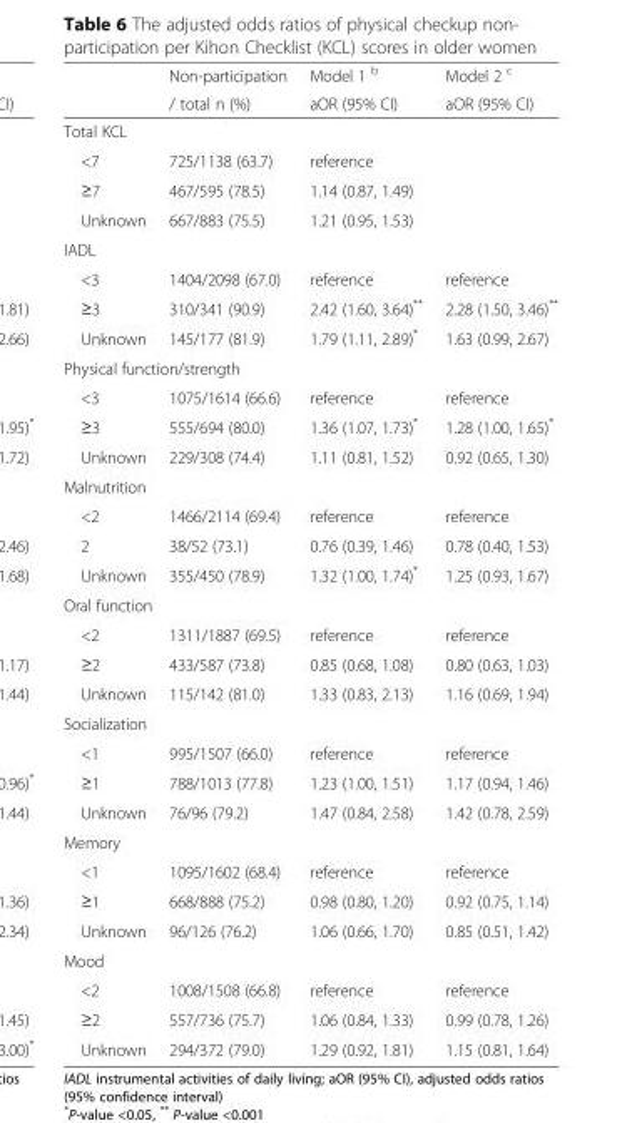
<table><thead><tr><td rowspan="2"></td><td rowspan="2">Non-participation / total n (%)</td><td rowspan="2">Model 1 <sup>b</sup> aOR (95% CI)</td><td rowspan="2">Model 2 <sup>c</sup> aOR (95% CI)</td></tr><tr></tr></thead><tbody><tr><td colspan="4">Total KCL</td></tr><tr><td>&lt;7</td><td>725/1138 (63.7)</td><td>reference</td><td></td></tr><tr><td>≥7</td><td>467/595 (78.5)</td><td>1.14 (0.87, 1.49)</td><td></td></tr><tr><td>Unknown</td><td>667/883 (75.5)</td><td>1.21 (0.95, 1.53)</td><td></td></tr><tr><td colspan="4">IADL</td></tr><tr><td>&lt;3</td><td>1404/2098 (67.0)</td><td>reference</td><td>reference</td></tr><tr><td>≥3</td><td>310/341 (90.9)</td><td>2.42 (1.60, 3.64)**</td><td>2.28 (1.50, 3.46)**</td></tr><tr><td>Unknown</td><td>145/177 (81.9)</td><td>1.79 (1.11, 2.89)*</td><td>1.63 (0.99, 2.67)</td></tr><tr><td colspan="4">Physical function/strength</td></tr><tr><td>&lt;3</td><td>1075/1614 (66.6)</td><td>reference</td><td>reference</td></tr><tr><td>≥3</td><td>555/694 (80.0)</td><td>1.36 (1.07, 1.73)*</td><td>1.28 (1.00, 1.65)*</td></tr><tr><td>Unknown</td><td>229/308 (74.4)</td><td>1.11 (0.81, 1.52)</td><td>0.92 (0.65, 1.30)</td></tr><tr><td colspan="4">Malnutrition</td></tr><tr><td>&lt;2</td><td>1466/2114 (69.4)</td><td>reference</td><td>reference</td></tr><tr><td>2</td><td>38/52 (73.1)</td><td>0.76 (0.39, 1.46)</td><td>0.78 (0.40, 1.53)</td></tr><tr><td>Unknown</td><td>355/450 (78.9)</td><td>1.32 (1.00, 1.74)*</td><td>1.25 (0.93, 1.67)</td></tr><tr><td colspan="4">Oral function</td></tr><tr><td>&lt;2</td><td>1311/1887 (69.5)</td><td>reference</td><td>reference</td></tr><tr><td>≥2</td><td>433/587 (73.8)</td><td>0.85 (0.68, 1.08)</td><td>0.80 (0.63, 1.03)</td></tr><tr><td>Unknown</td><td>115/142 (81.0)</td><td>1.33 (0.83, 2.13)</td><td>1.16 (0.69, 1.94)</td></tr><tr><td colspan="4">Socialization</td></tr><tr><td>&lt;1</td><td>995/1507 (66.0)</td><td>reference</td><td>reference</td></tr><tr><td>≥1</td><td>788/1013 (77.8)</td><td>1.23 (1.00, 1.51)</td><td>1.17 (0.94, 1.46)</td></tr><tr><td>Unknown</td><td>76/96 (79.2)</td><td>1.47 (0.84, 2.58)</td><td>1.42 (0.78, 2.59)</td></tr><tr><td colspan="4">Memory</td></tr><tr><td>&lt;1</td><td>1095/1602 (68.4)</td><td>reference</td><td>reference</td></tr><tr><td>≥1</td><td>668/888 (75.2)</td><td>0.98 (0.80, 1.20)</td><td>0.92 (0.75, 1.14)</td></tr><tr><td>Unknown</td><td>96/126 (76.2)</td><td>1.06 (0.66, 1.70)</td><td>0.85 (0.51, 1.42)</td></tr><tr><td colspan="4">Mood</td></tr><tr><td>&lt;2</td><td>1008/1508 (66.8)</td><td>reference</td><td>reference</td></tr><tr><td>≥2</td><td>557/736 (75.7)</td><td>1.06 (0.84, 1.33)</td><td>0.99 (0.78, 1.26)</td></tr><tr><td>Unknown</td><td>294/372 (79.0)</td><td>1.29 (0.92, 1.81)</td><td>1.15 (0.81, 1.64)</td></tr></tbody></table>